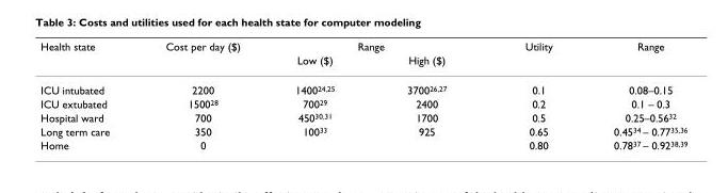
<table><thead><tr><td rowspan="2">Health state</td><td rowspan="2">Cost per day ($)</td><td colspan="2">Range</td><td rowspan="2">Utility</td><td rowspan="2">Range</td></tr><tr><td>Low ($)</td><td>High ($)</td></tr></thead><tbody><tr><td>ICU intubated</td><td>2200</td><td>1400<sup>24,25</sup></td><td>3700<sup>26,27</sup></td><td>0.1</td><td>0.08–0.15</td></tr><tr><td>ICU extubated</td><td>1500<sup>28</sup></td><td>700<sup>29</sup></td><td>2400</td><td>0.2</td><td>0.1 – 0.3</td></tr><tr><td>Hospital ward</td><td>700</td><td>450<sup>30,31</sup></td><td>1700</td><td>0.5</td><td>0.25–0.56<sup>32</sup></td></tr><tr><td>Long term care</td><td>350</td><td>100<sup>33</sup></td><td>925</td><td>0.65</td><td>0.45<sup>34</sup> – 0.77<sup>35,36</sup></td></tr><tr><td>Home</td><td>0</td><td></td><td></td><td>0.80</td><td>0.78<sup>37</sup> – 0.92<sup>38,39</sup></td></tr></tbody></table>